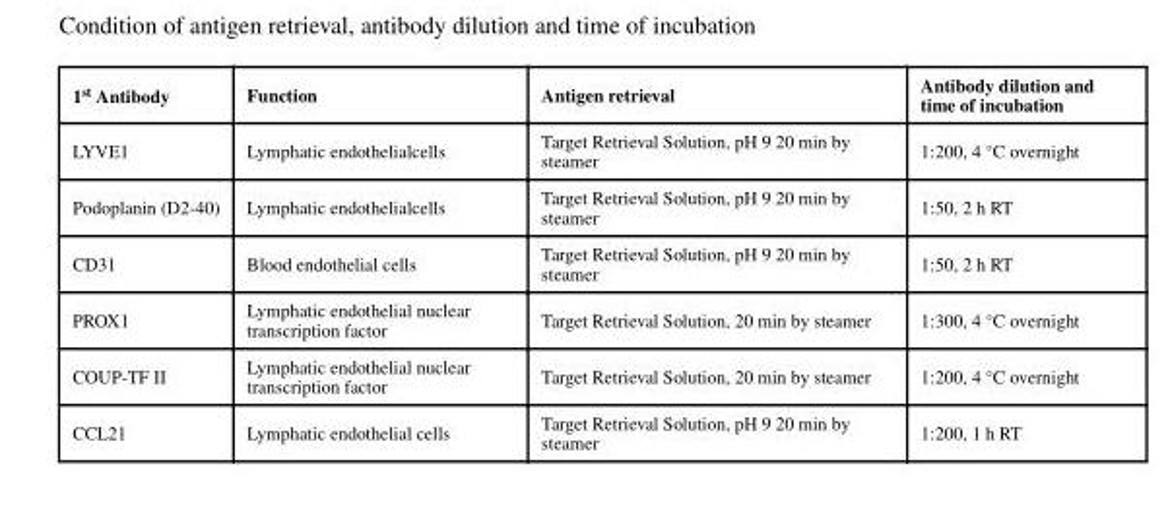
<table><thead><tr><td>1<sup>st</sup> Antibody</td><td>Function</td><td>Antigen retrieval</td><td>Antibody dilution and time of incubation</td></tr></thead><tbody><tr><td>LYVE1</td><td>Lymphatic endothelialcells</td><td>Target Retrieval Solution, pH 9 20 min by steamer</td><td>1:200, 4 °C overnight</td></tr><tr><td>Podoplanin (D2-40)</td><td>Lymphatic endothelialcells</td><td>Target Retrieval Solution, pH 9 20 min by steamer</td><td>1:50, 2 h RT</td></tr><tr><td>CD31</td><td>Blood endothelial cells</td><td>Target Retrieval Solution, pH 9 20 min by steamer</td><td>1:50, 2 h RT</td></tr><tr><td>PROX1</td><td>Lymphatic endothelial nuclear transcription factor</td><td>Target Retrieval Solution, 20 min by steamer</td><td>1:300, 4 °C overnight</td></tr><tr><td>COUP-TF II</td><td>Lymphatic endothelial nuclear transcription factor</td><td>Target Retrieval Solution, 20 min by steamer</td><td>1:200, 4 °C overnight</td></tr><tr><td>CCL21</td><td>Lymphatic endothelial cells</td><td>Target Retrieval Solution, pH 9 20 min by steamer</td><td>1:200, 1 h RT</td></tr></tbody></table>